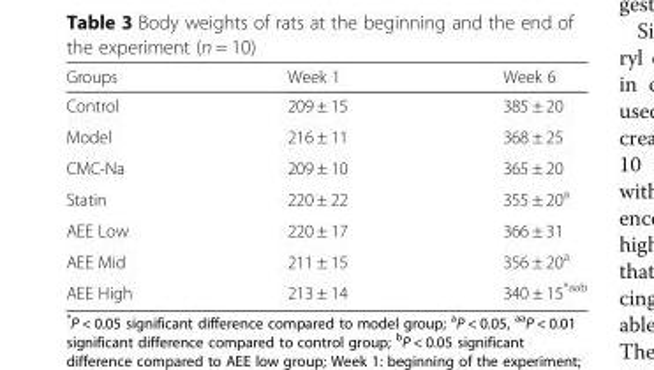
<table><thead><tr><td>Groups</td><td>Week 1</td><td>Week 6</td></tr></thead><tbody><tr><td>Control</td><td>209 ± 15</td><td>385 ± 20</td></tr><tr><td>Model</td><td>216 ± 11</td><td>368 ± 25</td></tr><tr><td>CMC-Na</td><td>209 ± 10</td><td>365 ± 20</td></tr><tr><td>Statin</td><td>220 ± 22</td><td>355 ± 20<sup>a</sup></td></tr><tr><td>AEE Low</td><td>220 ± 17</td><td>366 ± 31</td></tr><tr><td>AEE Mid</td><td>211 ± 15</td><td>356 ± 20<sup>a</sup></td></tr><tr><td>AEE High</td><td>213 ± 14</td><td>340 ± 15<sup>*aab</sup></td></tr></tbody></table>